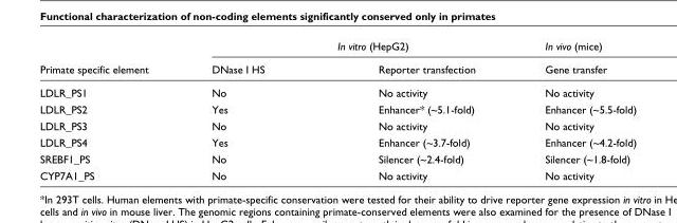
<table><thead><tr><td rowspan="2">Primate specific element</td><td colspan="2">In vitro (HepG2)</td><td rowspan="2">In vivo (mice) Gene transfer</td></tr><tr><td>DNase I HS</td><td>Reporter transfection</td></tr></thead><tbody><tr><td>LDLR_PS1</td><td>No</td><td>No activity</td><td>No activity</td></tr><tr><td>LDLR_PS2</td><td>Yes</td><td>Enhancer* (~5.1-fold)</td><td>Enhancer (~5.5-fold)</td></tr><tr><td>LDLR_PS3</td><td>No</td><td>No activity</td><td>No activity</td></tr><tr><td>LDLR_PS4</td><td>Yes</td><td>Enhancer (~3.7-fold)</td><td>Enhancer (~4.2-fold)</td></tr><tr><td>SREBF1_PS</td><td>No</td><td>Silencer (~2.4-fold)</td><td>Silencer (~1.8-fold)</td></tr><tr><td>CYP7A1_PS</td><td>No</td><td>No activity</td><td>No activity</td></tr></tbody></table>